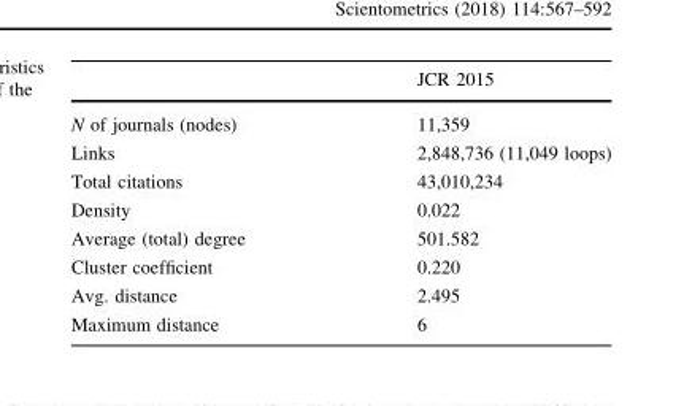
<table><thead><tr><td></td><td>JCR 2015</td></tr></thead><tbody><tr><td>N of journals (nodes)</td><td>11,359</td></tr><tr><td>Links</td><td>2,848,736 (11,049 loops)</td></tr><tr><td>Total citations</td><td>43,010,234</td></tr><tr><td>Density</td><td>0.022</td></tr><tr><td>Average (total) degree</td><td>501.582</td></tr><tr><td>Cluster coefficient</td><td>0.220</td></tr><tr><td>Avg. distance</td><td>2.495</td></tr><tr><td>Maximum distance</td><td>6</td></tr></tbody></table>